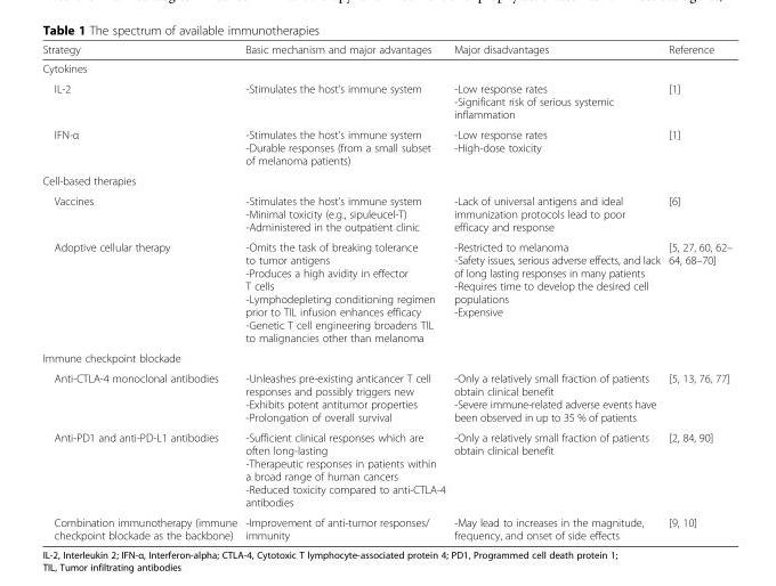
<table><thead><tr><td>Strategy</td><td>Basic mechanism and major advantages</td><td>Major disadvantages</td><td>Reference</td></tr></thead><tbody><tr><td colspan="4">Cytokines</td></tr><tr><td>IL-2</td><td>-Stimulates the host’s immune system</td><td>-Low response rates -Significant risk of serious systemic inflammation</td><td>[1]</td></tr><tr><td>IFN-α</td><td>-Stimulates the host’s immune system -Durable responses (from a small subset of melanoma patients)</td><td>-Low response rates -High-dose toxicity</td><td>[1]</td></tr><tr><td colspan="4">Cell-based therapies</td></tr><tr><td>Vaccines</td><td>-Stimulates the host’s immune system -Minimal toxicity (e.g., sipuleucel-T) -Administered in the outpatient clinic</td><td>-Lack of universal antigens and ideal immunization protocols lead to poor efficacy and response</td><td>[6]</td></tr><tr><td>Adoptive cellular therapy</td><td>-Omits the task of breaking tolerance to tumor antigens -Produces a high avidity in effector T cells -Lymphodepleting conditioning regimen prior to TIL infusion enhances efficacy -Genetic T cell engineering broadens TIL to malignancies other than melanoma</td><td>-Restricted to melanoma -Safety issues, serious adverse effects, and lack of long lasting responses in many patients -Requires time to develop the desired cell populations -Expensive</td><td>[5, 27, 60, 62– 64, 68–70]</td></tr><tr><td colspan="4">Immune checkpoint blockade</td></tr><tr><td>Anti-CTLA-4 monoclonal antibodies</td><td>-Unleashes pre-existing anticancer T cell responses and possibly triggers new -Exhibits potent antitumor properties -Prolongation of overall survival</td><td>-Only a relatively small fraction of patients obtain clinical benefit -Severe immune-related adverse events have been observed in up to 35 % of patients</td><td>[5, 13, 76, 77]</td></tr><tr><td>Anti-PD1 and anti-PD-L1 antibodies</td><td>-Sufficient clinical responses which are often long-lasting -Therapeutic responses in patients within a broad range of human cancers -Reduced toxicity compared to anti-CTLA-4 antibodies</td><td>-Only a relatively small fraction of patients obtain clinical benefit</td><td>[2, 84, 90]</td></tr><tr><td>Combination immunotherapy (immune checkpoint blockade as the backbone)</td><td>-Improvement of anti-tumor responses/ immunity</td><td>-May lead to increases in the magnitude, frequency, and onset of side effects</td><td>[9, 10]</td></tr></tbody></table>